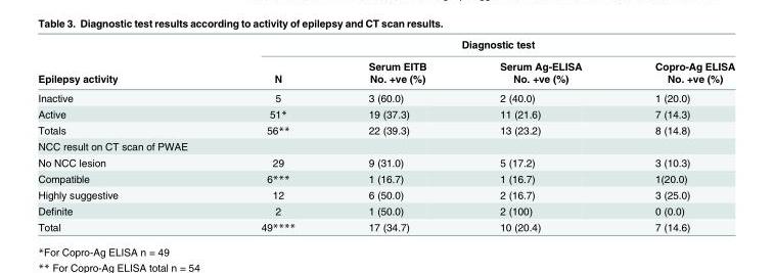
<table><thead><tr><td rowspan="3">Epilepsy activity</td><td colspan="4">Diagnostic test</td></tr><tr><td rowspan="2">N</td><td rowspan="2">Serum EITB No. +ve (%)</td><td rowspan="2">Serum Ag-ELISA No. +ve (%)</td><td rowspan="2">Copro-Ag ELISA No. +ve (%)</td></tr><tr></tr></thead><tbody><tr><td>Inactive</td><td>5</td><td>3 (60.0)</td><td>2 (40.0)</td><td>1 (20.0)</td></tr><tr><td>Active</td><td>51*</td><td>19 (37.3)</td><td>11 (21.6)</td><td>7 (14.3)</td></tr><tr><td>Totals</td><td>56**</td><td>22 (39.3)</td><td>13 (23.2)</td><td>8 (14.8)</td></tr><tr><td colspan="5">NCC result on CT scan of PWAE</td></tr><tr><td>No NCC lesion</td><td>29</td><td>9 (31.0)</td><td>5 (17.2)</td><td>3 (10.3)</td></tr><tr><td>Compatible</td><td>6***</td><td>1 (16.7)</td><td>1 (16.7)</td><td>1(20.0)</td></tr><tr><td>Highly suggestive</td><td>12</td><td>6 (50.0)</td><td>2 (16.7)</td><td>3 (25.0)</td></tr><tr><td>Definite</td><td>2</td><td>1 (50.0)</td><td>2 (100)</td><td>0 (0.0)</td></tr><tr><td>Total</td><td>49****</td><td>17 (34.7)</td><td>10 (20.4)</td><td>7 (14.6)</td></tr></tbody></table>